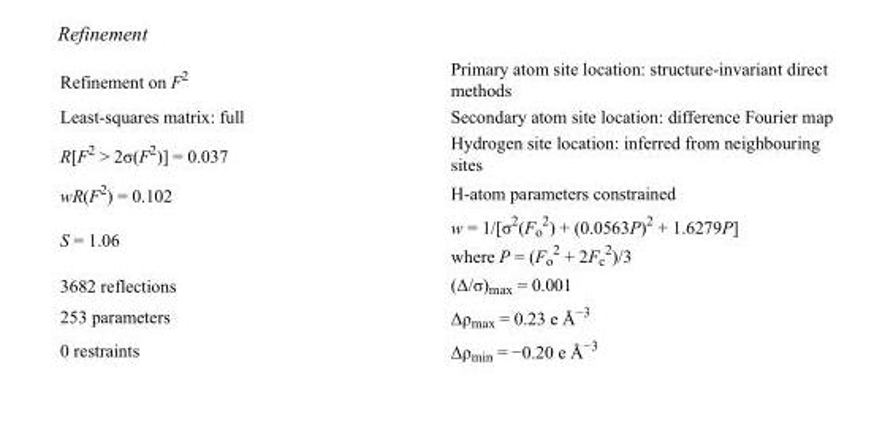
<table><tbody><tr><td>Refinement on F<sup>2</sup></td><td>Primary atom site location: structure-invariant direct methods</td></tr><tr><td>Least-squares matrix: full</td><td>Secondary atom site location: difference Fourier map</td></tr><tr><td>R[F<sup>2</sup> &gt; 2σ(F<sup>2</sup>)] = 0.037</td><td>Hydrogen site location: inferred from neighbouring sites</td></tr><tr><td>wR(F<sup>2</sup>) = 0.102</td><td>H-atom parameters constrained</td></tr><tr><td>S = 1.06</td><td>w = 1/[σ<sup>2</sup>(F<sub>o</sub> <sup>2</sup>) + (0.0563P)<sup>2</sup> + 1.6279P] where P = (F<sub>o</sub> <sup>2</sup> + 2F<sub>c</sub> <sup>2</sup>)/3</td></tr><tr><td>3682 reflections</td><td>(Δ/σ)<sub>max</sub> = 0.001</td></tr><tr><td>253 parameters</td><td>Δρ<sub>max</sub> = 0.23 e Å<sup>−3</sup></td></tr><tr><td>0 restraints</td><td>Δρ<sub>min</sub> = −0.20 e Å<sup>−3</sup></td></tr></tbody></table>